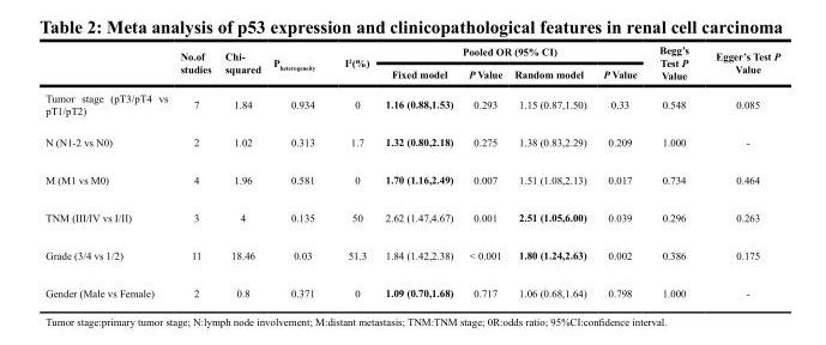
<table><thead><tr><td rowspan="2"></td><td rowspan="2">No.of studies</td><td rowspan="2">Chi- squared</td><td rowspan="2">P<sub>heterogeneity</sub></td><td rowspan="2">I<sup>2</sup>(%)</td><td colspan="4">Pooled OR (95% CI)</td><td rowspan="2">Begg’s Test P Value</td><td rowspan="2">Egger’s Test P Value</td></tr><tr><td>Fixed model</td><td>P Value</td><td>Random model</td><td>P Value</td></tr></thead><tbody><tr><td>Tumor stage (pT3/pT4 vs pT1/pT2)</td><td>7</td><td>1.84</td><td>0.934</td><td>0</td><td>1.16 (0.88,1.53)</td><td>0.293</td><td>1.15 (0.87,1.50)</td><td>0.33</td><td>0.548</td><td>0.085</td></tr><tr><td>N (N1-2 vs N0)</td><td>2</td><td>1.02</td><td>0.313</td><td>1.7</td><td>1.32 (0.80,2.18)</td><td>0.275</td><td>1.38 (0.83,2.29)</td><td>0.209</td><td>1.000</td><td>-</td></tr><tr><td>M (M1 vs M0)</td><td>4</td><td>1.96</td><td>0.581</td><td>0</td><td>1.70 (1.16,2.49)</td><td>0.007</td><td>1.51 (1.08,2.13)</td><td>0.017</td><td>0.734</td><td>0.464</td></tr><tr><td>TNM (III/IV vs I/II)</td><td>3</td><td>4</td><td>0.135</td><td>50</td><td>2.62 (1.47,4.67)</td><td>0.001</td><td>2.51 (1.05,6.00)</td><td>0.039</td><td>0.296</td><td>0.263</td></tr><tr><td>Grade (3/4 vs 1/2)</td><td>11</td><td>18.46</td><td>0.03</td><td>51.3</td><td>1.84 (1.42,2.38)</td><td>&lt; 0.001</td><td>1.80 (1.24,2.63)</td><td>0.002</td><td>0.386</td><td>0.175</td></tr><tr><td>Gender (Male vs Female)</td><td>2</td><td>0.8</td><td>0.371</td><td>0</td><td>1.09 (0.70,1.68)</td><td>0.717</td><td>1.06 (0.68,1.64)</td><td>0.798</td><td>1.000</td><td>-</td></tr></tbody></table>